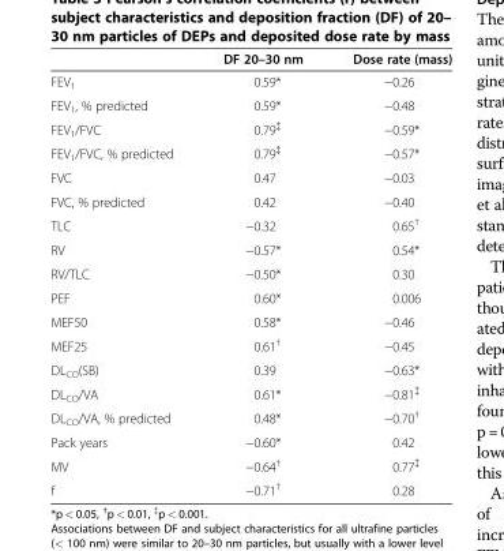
<table><thead><tr><td></td><td>DF 20–30 nm</td><td>Dose rate (mass)</td></tr></thead><tbody><tr><td>FEV<sub>1</sub></td><td>0.59*</td><td>−0.26</td></tr><tr><td>FEV<sub>1</sub>, % predicted</td><td>0.59*</td><td>−0.48</td></tr><tr><td>FEV<sub>1</sub>/FVC</td><td>0.79<sup>‡</sup></td><td>−0.59*</td></tr><tr><td>FEV<sub>1</sub>/FVC, % predicted</td><td>0.79<sup>‡</sup></td><td>−0.57*</td></tr><tr><td>FVC</td><td>0.47</td><td>−0.03</td></tr><tr><td>FVC, % predicted</td><td>0.42</td><td>−0.40</td></tr><tr><td>TLC</td><td>−0.32</td><td>0.65<sup>†</sup></td></tr><tr><td>RV</td><td>−0.57*</td><td>0.54*</td></tr><tr><td>RV/TLC</td><td>−0.50*</td><td>0.30</td></tr><tr><td>PEF</td><td>0.60*</td><td>0.006</td></tr><tr><td>MEF50</td><td>0.58*</td><td>−0.46</td></tr><tr><td>MEF25</td><td>0.61<sup>†</sup></td><td>−0.45</td></tr><tr><td>DL<sub>CO</sub>(SB)</td><td>0.39</td><td>−0.63*</td></tr><tr><td>DL<sub>CO</sub>/VA</td><td>0.61*</td><td>−0.81<sup>‡</sup></td></tr><tr><td>DL<sub>CO</sub>/VA, % predicted</td><td>0.48*</td><td>−0.70<sup>†</sup></td></tr><tr><td>Pack years</td><td>−0.60*</td><td>0.42</td></tr><tr><td>MV</td><td>−0.64<sup>†</sup></td><td>0.77<sup>‡</sup></td></tr><tr><td>f</td><td>−0.71<sup>†</sup></td><td>0.28</td></tr></tbody></table>